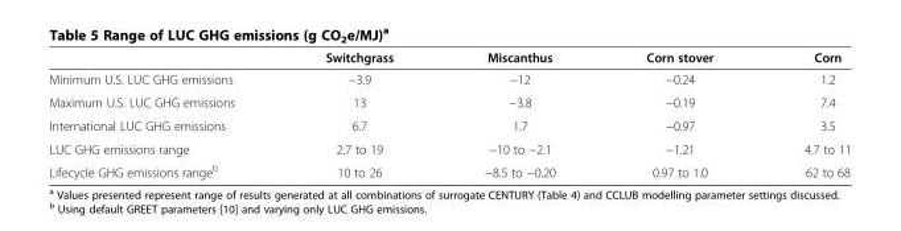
<table><thead><tr><td></td><td>Switchgrass</td><td>Miscanthus</td><td>Corn stover</td><td>Corn</td></tr></thead><tbody><tr><td>Minimum U.S. LUC GHG emissions</td><td>−3.9</td><td>−12</td><td>−0.24</td><td>1.2</td></tr><tr><td>Maximum U.S. LUC GHG emissions</td><td>13</td><td>−3.8</td><td>−0.19</td><td>7.4</td></tr><tr><td>International LUC GHG emissions</td><td>6.7</td><td>1.7</td><td>−0.97</td><td>3.5</td></tr><tr><td>LUC GHG emissions range</td><td>2.7 to 19</td><td>−10 to −2.1</td><td>−1.21</td><td>4.7 to 11</td></tr><tr><td>Lifecycle GHG emissions range<sup>b</sup></td><td>10 to 26</td><td>−8.5 to −0.20</td><td>0.97 to 1.0</td><td>62 to 68</td></tr></tbody></table>